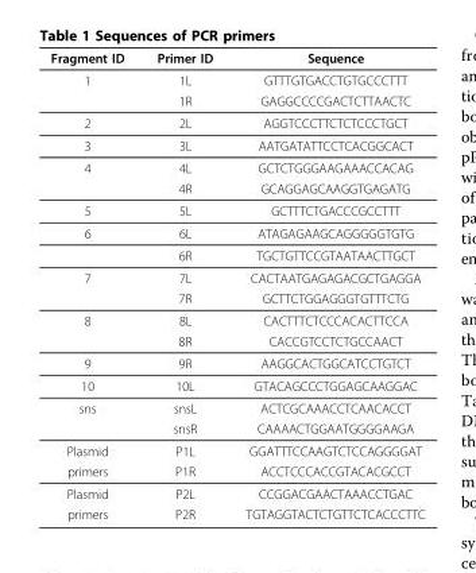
<table><thead><tr><td>Fragment ID</td><td>Primer ID</td><td>Sequence</td></tr></thead><tbody><tr><td rowspan="2">1</td><td>1L</td><td>GTTTGTGACCTGTGCCCTTT</td></tr><tr><td>1R</td><td>GAGGCCCCGACTCTTAACTC</td></tr><tr><td>2</td><td>2L</td><td>AGGTCCCTTCTCTCCCTGCT</td></tr><tr><td>3</td><td>3L</td><td>AATGATATTCCTCACGGCACT</td></tr><tr><td rowspan="2">4</td><td>4L</td><td>GCTCTGGGAAGAAACCACAG</td></tr><tr><td>4R</td><td>GCAGGAGCAAGGTGAGATG</td></tr><tr><td>5</td><td>5L</td><td>GCTTTCTGACCCGCCTTT</td></tr><tr><td rowspan="2">6</td><td>6L</td><td>ATAGAGAAGCAGGGGGTGTG</td></tr><tr><td>6R</td><td>TGCTGTTCCGTAATAACTTGCT</td></tr><tr><td rowspan="2">7</td><td>7L</td><td>CACTAATGAGAGACGCTGAGGA</td></tr><tr><td>7R</td><td>GCTTCTGGAGGGTGTTTCTG</td></tr><tr><td rowspan="2">8</td><td>8L</td><td>CACTTTCTCCCACACTTCCA</td></tr><tr><td>8R</td><td>CACCGTCCTCTGCCAACT</td></tr><tr><td>9</td><td>9R</td><td>AAGGCACTGGCATCCTGTCT</td></tr><tr><td>10</td><td>10L</td><td>GTACAGCCCTGGAGCAAGGAC</td></tr><tr><td rowspan="2">sns</td><td>snsL</td><td>ACTCGCAAACCTCAACACCT</td></tr><tr><td>snsR</td><td>CAAAACTGGAATGGGGAAGA</td></tr><tr><td>Plasmid</td><td>P1L</td><td>GGATTTCCAAGTCTCCAGGGGAT</td></tr><tr><td>primers</td><td>P1R</td><td>ACCTCCCACCGTACACGCCT</td></tr><tr><td>Plasmid</td><td>P2L</td><td>CCGGACGAACTAAACCTGAC</td></tr><tr><td>primers</td><td>P2R</td><td>TGTAGGTACTCTGTTCTCACCCTTC</td></tr></tbody></table>